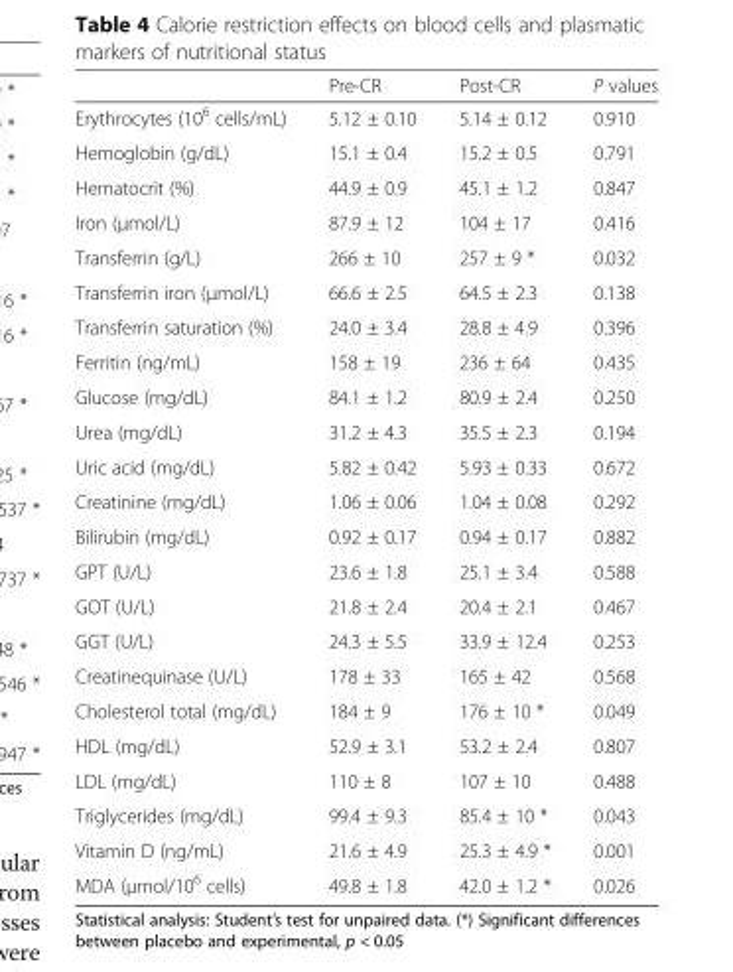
<table><thead><tr><td></td><td>Pre-CR</td><td>Post-CR</td><td>P values</td></tr></thead><tbody><tr><td>Erythrocytes (10<sup>6</sup> cells/mL)</td><td>5.12 ± 0.10</td><td>5.14 ± 0.12</td><td>0.910</td></tr><tr><td>Hemoglobin (g/dL)</td><td>15.1 ± 0.4</td><td>15.2 ± 0.5</td><td>0.791</td></tr><tr><td>Hematocrit (%)</td><td>44.9 ± 0.9</td><td>45.1 ± 1.2</td><td>0.847</td></tr><tr><td>Iron (μmol/L)</td><td>87.9 ± 12</td><td>104 ± 17</td><td>0.416</td></tr><tr><td>Transferrin (g/L)</td><td>266 ± 10</td><td>257 ± 9 *</td><td>0.032</td></tr><tr><td>Transferrin iron (μmol/L)</td><td>66.6 ± 2.5</td><td>64.5 ± 2.3</td><td>0.138</td></tr><tr><td>Transferrin saturation (%)</td><td>24.0 ± 3.4</td><td>28.8 ± 4.9</td><td>0.396</td></tr><tr><td>Ferritin (ng/mL)</td><td>158 ± 19</td><td>236 ± 64</td><td>0.435</td></tr><tr><td>Glucose (mg/dL)</td><td>84.1 ± 1.2</td><td>80.9 ± 2.4</td><td>0.250</td></tr><tr><td>Urea (mg/dL)</td><td>31.2 ± 4.3</td><td>35.5 ± 2.3</td><td>0.194</td></tr><tr><td>Uric acid (mg/dL)</td><td>5.82 ± 0.42</td><td>5.93 ± 0.33</td><td>0.672</td></tr><tr><td>Creatinine (mg/dL)</td><td>1.06 ± 0.06</td><td>1.04 ± 0.08</td><td>0.292</td></tr><tr><td>Bilirubin (mg/dL)</td><td>0.92 ± 0.17</td><td>0.94 ± 0.17</td><td>0.882</td></tr><tr><td>GPT (U/L)</td><td>23.6 ± 1.8</td><td>25.1 ± 3.4</td><td>0.588</td></tr><tr><td>GOT (U/L)</td><td>21.8 ± 2.4</td><td>20.4 ± 2.1</td><td>0.467</td></tr><tr><td>GGT (U/L)</td><td>24.3 ± 5.5</td><td>33.9 ± 12.4</td><td>0.253</td></tr><tr><td>Creatinequinase (U/L)</td><td>178 ± 33</td><td>165 ± 42</td><td>0.568</td></tr><tr><td>Cholesterol total (mg/dL)</td><td>184 ± 9</td><td>176 ± 10 *</td><td>0.049</td></tr><tr><td>HDL (mg/dL)</td><td>52.9 ± 3.1</td><td>53.2 ± 2.4</td><td>0.807</td></tr><tr><td>LDL (mg/dL)</td><td>110 ± 8</td><td>107 ± 10</td><td>0.488</td></tr><tr><td>Triglycerides (mg/dL)</td><td>99.4 ± 9.3</td><td>85.4 ± 10 *</td><td>0.043</td></tr><tr><td>Vitamin D (ng/mL)</td><td>21.6 ± 4.9</td><td>25.3 ± 4.9 *</td><td>0.001</td></tr><tr><td>MDA (μmol/10<sup>6</sup> cells)</td><td>49.8 ± 1.8</td><td>42.0 ± 1.2 *</td><td>0.026</td></tr></tbody></table>